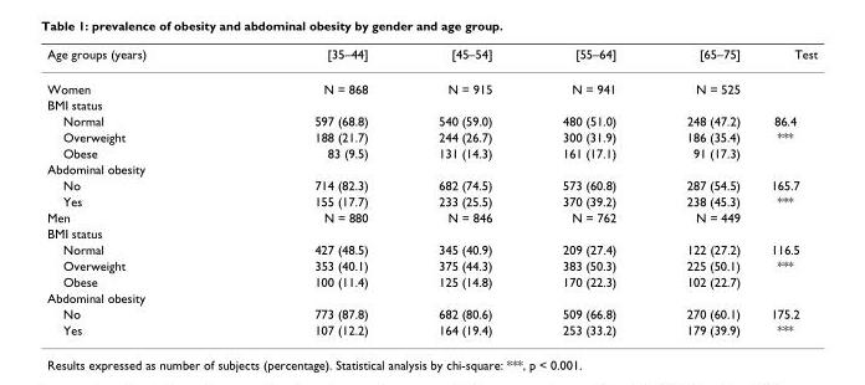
<table><thead><tr><td>Age groups (years)</td><td>[35–44]</td><td>[45–54]</td><td>[55–64]</td><td>[65–75]</td><td>Test</td></tr></thead><tbody><tr><td>Women</td><td>N = 868</td><td>N = 915</td><td>N = 941</td><td>N = 525</td><td></td></tr><tr><td colspan="6">BMI status</td></tr><tr><td>Normal</td><td>597 (68.8)</td><td>540 (59.0)</td><td>480 (51.0)</td><td>248 (47.2)</td><td>86.4</td></tr><tr><td>Overweight</td><td>188 (21.7)</td><td>244 (26.7)</td><td>300 (31.9)</td><td>186 (35.4)</td><td>***</td></tr><tr><td>Obese</td><td>83 (9.5)</td><td>131 (14.3)</td><td>161 (17.1)</td><td>91 (17.3)</td><td></td></tr><tr><td colspan="6">Abdominal obesity</td></tr><tr><td>No</td><td>714 (82.3)</td><td>682 (74.5)</td><td>573 (60.8)</td><td>287 (54.5)</td><td>165.7</td></tr><tr><td>Yes</td><td>155 (17.7)</td><td>233 (25.5)</td><td>370 (39.2)</td><td>238 (45.3)</td><td>***</td></tr><tr><td>Men</td><td>N = 880</td><td>N = 846</td><td>N = 762</td><td>N = 449</td><td></td></tr><tr><td colspan="6">BMI status</td></tr><tr><td>Normal</td><td>427 (48.5)</td><td>345 (40.9)</td><td>209 (27.4)</td><td>122 (27.2)</td><td>116.5</td></tr><tr><td>Overweight</td><td>353 (40.1)</td><td>375 (44.3)</td><td>383 (50.3)</td><td>225 (50.1)</td><td>***</td></tr><tr><td>Obese</td><td>100 (11.4)</td><td>125 (14.8)</td><td>170 (22.3)</td><td>102 (22.7)</td><td></td></tr><tr><td colspan="6">Abdominal obesity</td></tr><tr><td>No</td><td>773 (87.8)</td><td>682 (80.6)</td><td>509 (66.8)</td><td>270 (60.1)</td><td>175.2</td></tr><tr><td>Yes</td><td>107 (12.2)</td><td>164 (19.4)</td><td>253 (33.2)</td><td>179 (39.9)</td><td>***</td></tr></tbody></table>